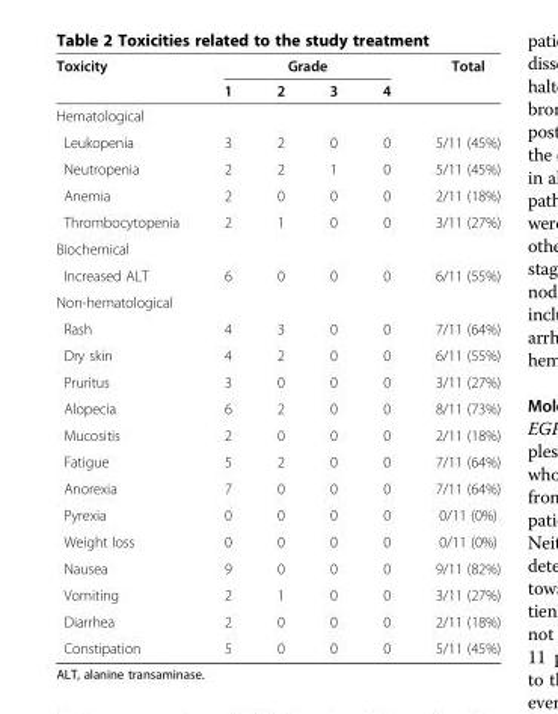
<table><thead><tr><td rowspan="2">Toxicity</td><td colspan="4">Grade</td><td rowspan="2">Total</td></tr><tr><td>1</td><td>2</td><td>3</td><td>4</td></tr></thead><tbody><tr><td colspan="6">Hematological</td></tr><tr><td>Leukopenia</td><td>3</td><td>2</td><td>0</td><td>0</td><td>5/11 (45%)</td></tr><tr><td>Neutropenia</td><td>2</td><td>2</td><td>1</td><td>0</td><td>5/11 (45%)</td></tr><tr><td>Anemia</td><td>2</td><td>0</td><td>0</td><td>0</td><td>2/11 (18%)</td></tr><tr><td>Thrombocytopenia</td><td>2</td><td>1</td><td>0</td><td>0</td><td>3/11 (27%)</td></tr><tr><td colspan="6">Biochemical</td></tr><tr><td>Increased ALT</td><td>6</td><td>0</td><td>0</td><td>0</td><td>6/11 (55%)</td></tr><tr><td colspan="6">Non-hematological</td></tr><tr><td>Rash</td><td>4</td><td>3</td><td>0</td><td>0</td><td>7/11 (64%)</td></tr><tr><td>Dry skin</td><td>4</td><td>2</td><td>0</td><td>0</td><td>6/11 (55%)</td></tr><tr><td>Pruritus</td><td>3</td><td>0</td><td>0</td><td>0</td><td>3/11 (27%)</td></tr><tr><td>Alopecia</td><td>6</td><td>2</td><td>0</td><td>0</td><td>8/11 (73%)</td></tr><tr><td>Mucositis</td><td>2</td><td>0</td><td>0</td><td>0</td><td>2/11 (18%)</td></tr><tr><td>Fatigue</td><td>5</td><td>2</td><td>0</td><td>0</td><td>7/11 (64%)</td></tr><tr><td>Anorexia</td><td>7</td><td>0</td><td>0</td><td>0</td><td>7/11 (64%)</td></tr><tr><td>Pyrexia</td><td>0</td><td>0</td><td>0</td><td>0</td><td>0/11 (0%)</td></tr><tr><td>Weight loss</td><td>0</td><td>0</td><td>0</td><td>0</td><td>0/11 (0%)</td></tr><tr><td>Nausea</td><td>9</td><td>0</td><td>0</td><td>0</td><td>9/11 (82%)</td></tr><tr><td>Vomiting</td><td>2</td><td>1</td><td>0</td><td>0</td><td>3/11 (27%)</td></tr><tr><td>Diarrhea</td><td>2</td><td>0</td><td>0</td><td>0</td><td>2/11 (18%)</td></tr><tr><td>Constipation</td><td>5</td><td>0</td><td>0</td><td>0</td><td>5/11 (45%)</td></tr></tbody></table>